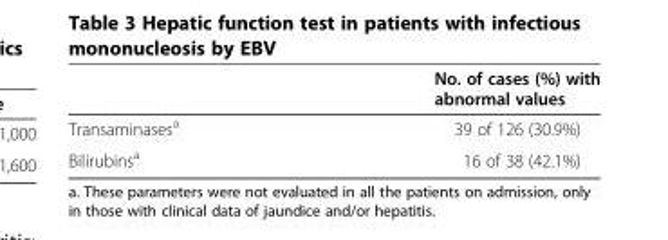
<table><thead><tr><td></td><td>No. of cases (%) with abnormal values</td></tr></thead><tbody><tr><td>Transaminases<sup>a</sup></td><td>39 of 126 (30.9%)</td></tr><tr><td>Bilirubins<sup>a</sup></td><td>16 of 38 (42.1%)</td></tr></tbody></table>